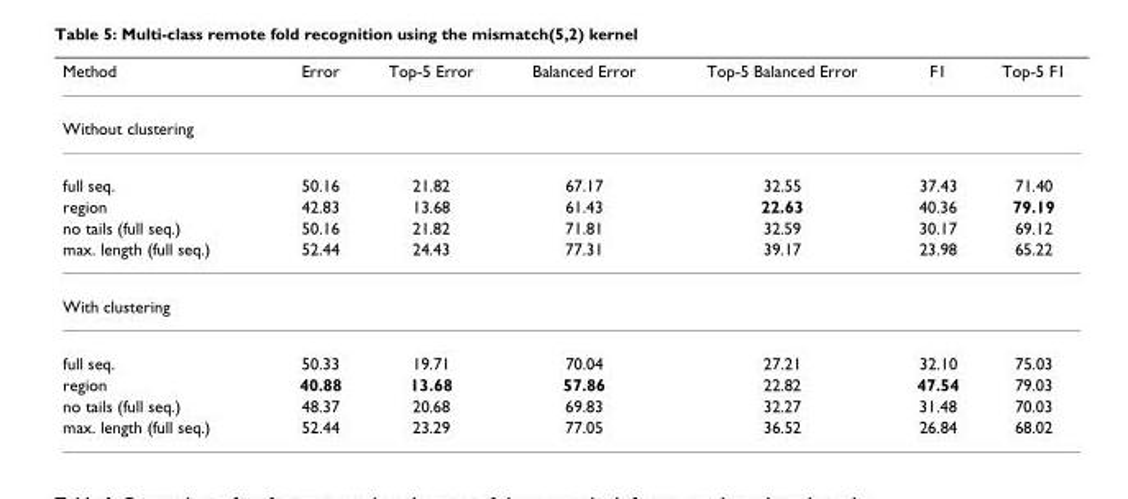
<table><thead><tr><td>Method</td><td>Error</td><td>Top-5 Error</td><td>Balanced Error</td><td>Top-5 Balanced Error</td><td>F1</td><td>Top-5 F1</td></tr></thead><tbody><tr><td colspan="7">Without clustering</td></tr><tr><td>full seq.</td><td>50.16</td><td>21.82</td><td>67.17</td><td>32.55</td><td>37.43</td><td>71.40</td></tr><tr><td>region</td><td>42.83</td><td>13.68</td><td>61.43</td><td>22.63</td><td>40.36</td><td>79.19</td></tr><tr><td>no tails (full seq.)</td><td>50.16</td><td>21.82</td><td>71.81</td><td>32.59</td><td>30.17</td><td>69.12</td></tr><tr><td>max. length (full seq.)</td><td>52.44</td><td>24.43</td><td>77.31</td><td>39.17</td><td>23.98</td><td>65.22</td></tr><tr><td colspan="7">With clustering</td></tr><tr><td>full seq.</td><td>50.33</td><td>19.71</td><td>70.04</td><td>27.21</td><td>32.10</td><td>75.03</td></tr><tr><td>region</td><td>40.88</td><td>13.68</td><td>57.86</td><td>22.82</td><td>47.54</td><td>79.03</td></tr><tr><td>no tails (full seq.)</td><td>48.37</td><td>20.68</td><td>69.83</td><td>32.27</td><td>31.48</td><td>70.03</td></tr><tr><td>max. length (full seq.)</td><td>52.44</td><td>23.29</td><td>77.05</td><td>36.52</td><td>26.84</td><td>68.02</td></tr></tbody></table>